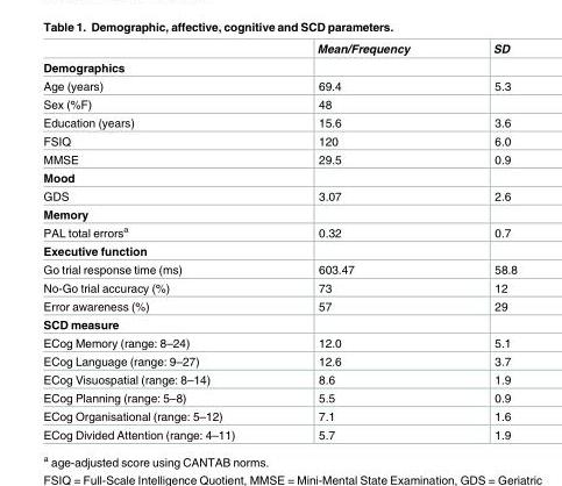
<table><thead><tr><td></td><td>Mean/Frequency</td><td>SD</td></tr></thead><tbody><tr><td colspan="3">Demographics</td></tr><tr><td>Age (years)</td><td>69.4</td><td>5.3</td></tr><tr><td>Sex (%F)</td><td>48</td><td></td></tr><tr><td>Education (years)</td><td>15.6</td><td>3.6</td></tr><tr><td>FSIQ</td><td>120</td><td>6.0</td></tr><tr><td>MMSE</td><td>29.5</td><td>0.9</td></tr><tr><td colspan="3">Mood</td></tr><tr><td>GDS</td><td>3.07</td><td>2.6</td></tr><tr><td colspan="3">Memory</td></tr><tr><td>PAL total errors<sup>a</sup></td><td>0.32</td><td>0.7</td></tr><tr><td colspan="3">Executive function</td></tr><tr><td>Go trial response time (ms)</td><td>603.47</td><td>58.8</td></tr><tr><td>No-Go trial accuracy (%)</td><td>73</td><td>12</td></tr><tr><td>Error awareness (%)</td><td>57</td><td>29</td></tr><tr><td colspan="3">SCD measure</td></tr><tr><td>ECog Memory (range: 8–24)</td><td>12.0</td><td>5.1</td></tr><tr><td>ECog Language (range: 9–27)</td><td>12.6</td><td>3.7</td></tr><tr><td>ECog Visuospatial (range: 8–14)</td><td>8.6</td><td>1.9</td></tr><tr><td>ECog Planning (range: 5–8)</td><td>5.5</td><td>0.9</td></tr><tr><td>ECog Organisational (range: 5–12)</td><td>7.1</td><td>1.6</td></tr><tr><td>ECog Divided Attention (range: 4–11)</td><td>5.7</td><td>1.9</td></tr></tbody></table>